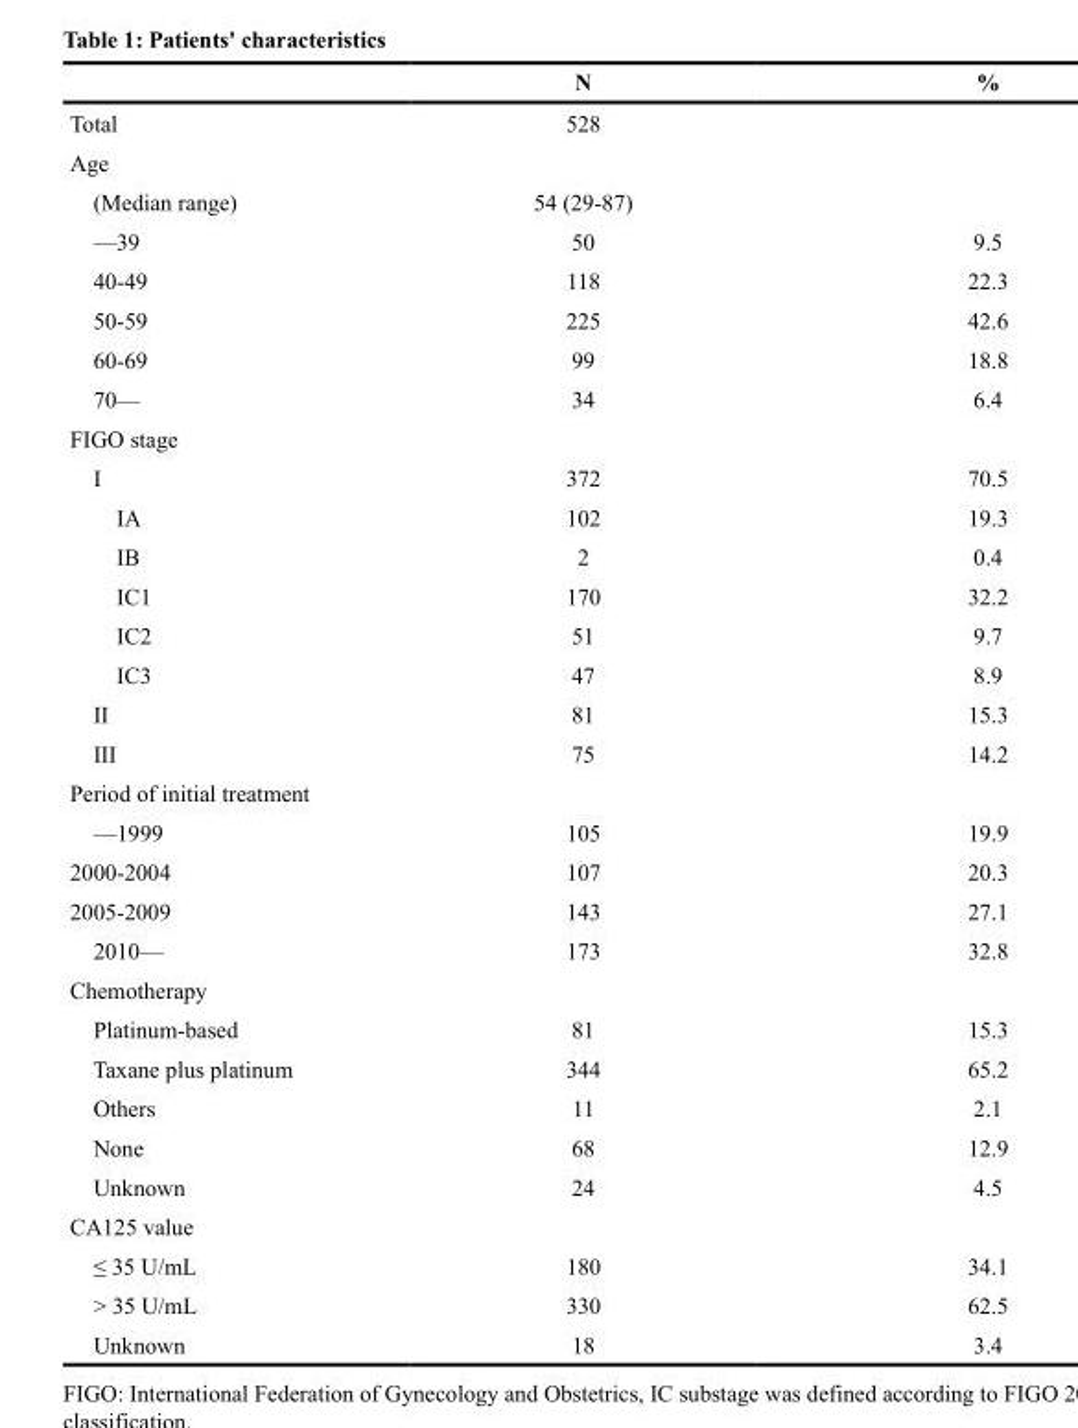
<table><thead><tr><td></td><td>N</td><td>%</td></tr></thead><tbody><tr><td>Total</td><td>528</td><td></td></tr><tr><td colspan="3">Age</td></tr><tr><td>(Median range)</td><td>54 (29-87)</td><td></td></tr><tr><td>—39</td><td>50</td><td>9.5</td></tr><tr><td>40-49</td><td>118</td><td>22.3</td></tr><tr><td>50-59</td><td>225</td><td>42.6</td></tr><tr><td>60-69</td><td>99</td><td>18.8</td></tr><tr><td>70—</td><td>34</td><td>6.4</td></tr><tr><td colspan="3">FIGO stage</td></tr><tr><td>I</td><td>372</td><td>70.5</td></tr><tr><td>IA</td><td>102</td><td>19.3</td></tr><tr><td>IB</td><td>2</td><td>0.4</td></tr><tr><td>IC1</td><td>170</td><td>32.2</td></tr><tr><td>IC2</td><td>51</td><td>9.7</td></tr><tr><td>IC3</td><td>47</td><td>8.9</td></tr><tr><td>II</td><td>81</td><td>15.3</td></tr><tr><td>III</td><td>75</td><td>14.2</td></tr><tr><td colspan="3">Period of initial treatment</td></tr><tr><td>—1999</td><td>105</td><td>19.9</td></tr><tr><td>2000-2004</td><td>107</td><td>20.3</td></tr><tr><td>2005-2009</td><td>143</td><td>27.1</td></tr><tr><td>2010—</td><td>173</td><td>32.8</td></tr><tr><td colspan="3">Chemotherapy</td></tr><tr><td>Platinum-based</td><td>81</td><td>15.3</td></tr><tr><td>Taxane plus platinum</td><td>344</td><td>65.2</td></tr><tr><td>Others</td><td>11</td><td>2.1</td></tr><tr><td>None</td><td>68</td><td>12.9</td></tr><tr><td>Unknown</td><td>24</td><td>4.5</td></tr><tr><td colspan="3">CA125 value</td></tr><tr><td>≤ 35 U/mL</td><td>180</td><td>34.1</td></tr><tr><td>&gt; 35 U/mL</td><td>330</td><td>62.5</td></tr><tr><td>Unknown</td><td>18</td><td>3.4</td></tr></tbody></table>